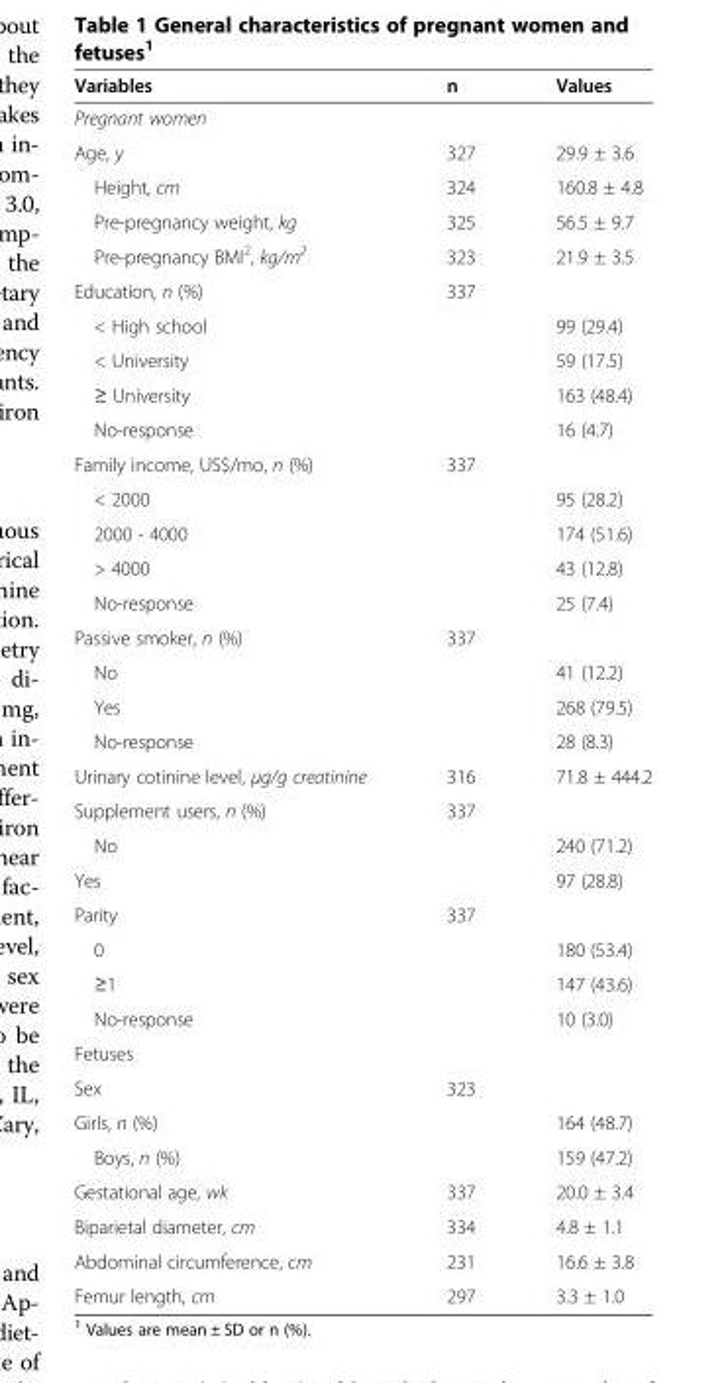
<table><thead><tr><td>Variables</td><td>n</td><td>Values</td></tr></thead><tbody><tr><td colspan="3">Pregnant women</td></tr><tr><td>Age, y</td><td>327</td><td>29.9 ± 3.6</td></tr><tr><td>Height, cm</td><td>324</td><td>160.8 ± 4.8</td></tr><tr><td>Pre-pregnancy weight, kg</td><td>325</td><td>56.5 ± 9.7</td></tr><tr><td>Pre-pregnancy BMI<sup>2</sup>, kg/m<sup>2</sup></td><td>323</td><td>21.9 ± 3.5</td></tr><tr><td>Education, n (%)</td><td>337</td><td></td></tr><tr><td>&lt; High school</td><td></td><td>99 (29.4)</td></tr><tr><td>&lt; University</td><td></td><td>59 (17.5)</td></tr><tr><td>≥ University</td><td></td><td>163 (48.4)</td></tr><tr><td>No-response</td><td></td><td>16 (4.7)</td></tr><tr><td>Family income, US$/mo, n (%)</td><td>337</td><td></td></tr><tr><td>&lt; 2000</td><td></td><td>95 (28.2)</td></tr><tr><td>2000 - 4000</td><td></td><td>174 (51.6)</td></tr><tr><td>&gt; 4000</td><td></td><td>43 (12.8)</td></tr><tr><td>No-response</td><td></td><td>25 (7.4)</td></tr><tr><td>Passive smoker, n (%)</td><td>337</td><td></td></tr><tr><td>No</td><td></td><td>41 (12.2)</td></tr><tr><td>Yes</td><td></td><td>268 (79.5)</td></tr><tr><td>No-response</td><td></td><td>28 (8.3)</td></tr><tr><td>Urinary cotinine level, μg/g creatinine</td><td>316</td><td>71.8 ± 444.2</td></tr><tr><td>Supplement users, n (%)</td><td>337</td><td></td></tr><tr><td>No</td><td></td><td>240 (71.2)</td></tr><tr><td>Yes</td><td></td><td>97 (28.8)</td></tr><tr><td>Parity</td><td>337</td><td></td></tr><tr><td>0</td><td></td><td>180 (53.4)</td></tr><tr><td>≥1</td><td></td><td>147 (43.6)</td></tr><tr><td>No-response</td><td></td><td>10 (3.0)</td></tr><tr><td colspan="3">Fetuses</td></tr><tr><td>Sex</td><td>323</td><td></td></tr><tr><td>Girls, n (%)</td><td></td><td>164 (48.7)</td></tr><tr><td>Boys, n (%)</td><td></td><td>159 (47.2)</td></tr><tr><td>Gestational age, wk</td><td>337</td><td>20.0 ± 3.4</td></tr><tr><td>Biparietal diameter, cm</td><td>334</td><td>4.8 ± 1.1</td></tr><tr><td>Abdominal circumference, cm</td><td>231</td><td>16.6 ± 3.8</td></tr><tr><td>Femur length, cm</td><td>297</td><td>3.3 ± 1.0</td></tr></tbody></table>